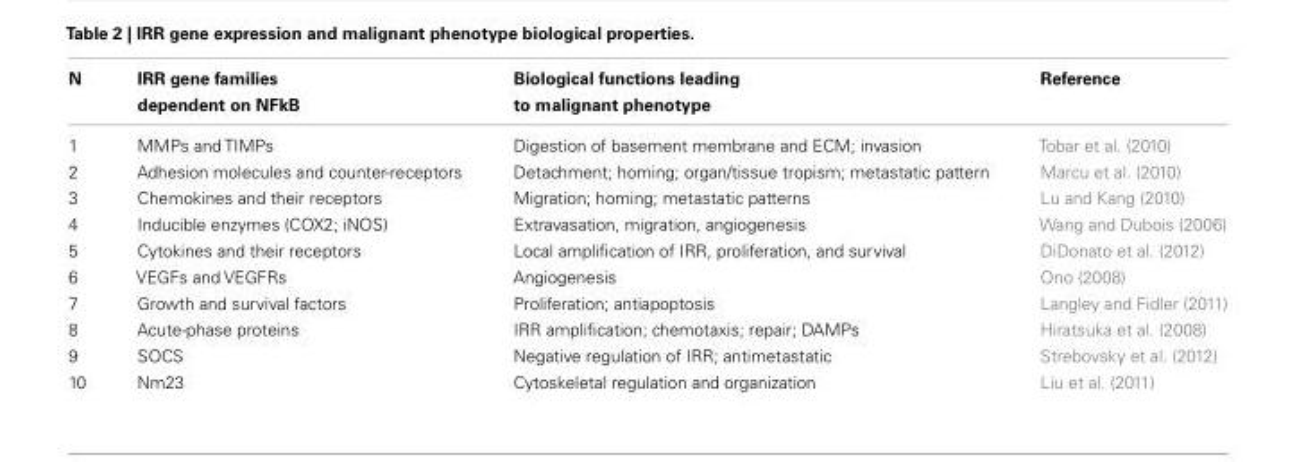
<table><thead><tr><td>N</td><td>IRR gene families dependent on NFkB</td><td>Biological functions leading to malignant phenotype</td><td>Reference</td></tr></thead><tbody><tr><td>1</td><td>MMPs and TIMPs</td><td>Digestion of basement membrane and ECM; invasion</td><td>Tobar et al. (2010)</td></tr><tr><td>2</td><td>Adhesion molecules and counter-receptors</td><td>Detachment; homing; organ/tissue tropism; metastatic pattern</td><td>Marcu et al. (2010)</td></tr><tr><td>3</td><td>Chemokines and their receptors</td><td>Migration; homing; metastatic patterns</td><td>Lu and Kang (2010)</td></tr><tr><td>4</td><td>Inducible enzymes (COX2; iNOS)</td><td>Extravasation, migration, angiogenesis</td><td>Wang and Dubois (2006)</td></tr><tr><td>5</td><td>Cytokines and their receptors</td><td>Local amplification of IRR, proliferation, and survival</td><td>DiDonato et al. (2012)</td></tr><tr><td>6</td><td>VEGFs and VEGFRs</td><td>Angiogenesis</td><td>Ono (2008)</td></tr><tr><td>7</td><td>Growth and survival factors</td><td>Proliferation; antiapoptosis</td><td>Langley and Fidler (2011)</td></tr><tr><td>8</td><td>Acute-phase proteins</td><td>IRR amplification; chemotaxis; repair; DAMPs</td><td>Hiratsuka et al. (2008)</td></tr><tr><td>9</td><td>SOCS</td><td>Negative regulation of IRR; antimetastatic</td><td>Strebovsky et al. (2012)</td></tr><tr><td>10</td><td>Nm23</td><td>Cytoskeletal regulation and organization</td><td>Liu et al. (2011)</td></tr></tbody></table>